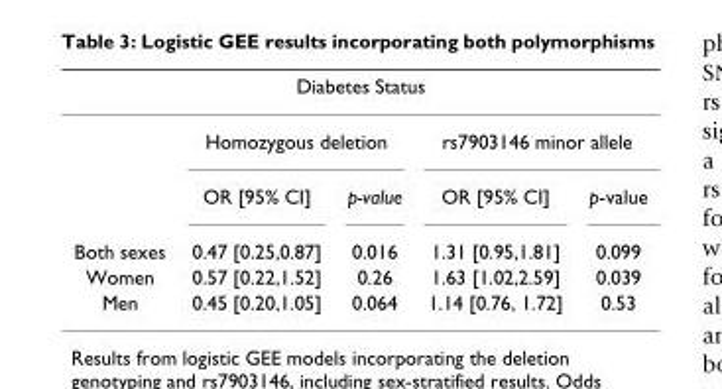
<table><thead><tr><td colspan="5">Diabetes Status</td></tr><tr><td rowspan="2"></td><td colspan="2">Homozygous deletion</td><td colspan="2">rs7903146 minor allele</td></tr><tr><td>OR [95% CI]</td><td>p-value</td><td>OR [95% CI]</td><td>p-value</td></tr></thead><tbody><tr><td>Both sexes</td><td>0.47 [0.25,0.87]</td><td>0.016</td><td>1.31 [0.95,1.81]</td><td>0.099</td></tr><tr><td>Women</td><td>0.57 [0.22,1.52]</td><td>0.26</td><td>1.63 [1.02,2.59]</td><td>0.039</td></tr><tr><td>Men</td><td>0.45 [0.20,1.05]</td><td>0.064</td><td>1.14 [0.76, 1.72]</td><td>0.53</td></tr></tbody></table>